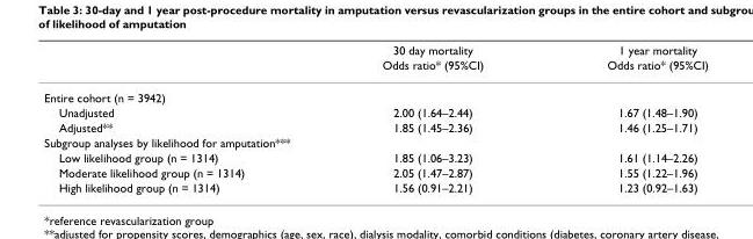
<table><thead><tr><td rowspan="2"></td><td rowspan="2">30 day mortality Odds ratio* (95%CI)</td><td rowspan="2">1 year mortality Odds ratio* (95%CI)</td></tr><tr></tr></thead><tbody><tr><td colspan="3">Entire cohort (n = 3942)</td></tr><tr><td>Unadjusted</td><td>2.00 (1.64–2.44)</td><td>1.67 (1.48–1.90)</td></tr><tr><td>Adjusted**</td><td>1.85 (1.45–2.36)</td><td>1.46 (1.25–1.71)</td></tr><tr><td colspan="3">Subgroup analyses by likelihood for amputation***</td></tr><tr><td>Low likelihood group (n = 1314)</td><td>1.85 (1.06–3.23)</td><td>1.61 (1.14–2.26)</td></tr><tr><td>Moderate likelihood group (n = 1314)</td><td>2.05 (1.47–2.87)</td><td>1.55 (1.22–1.96)</td></tr><tr><td>High likelihood group (n = 1314)</td><td>1.56 (0.91–2.21)</td><td>1.23 (0.92–1.63)</td></tr></tbody></table>